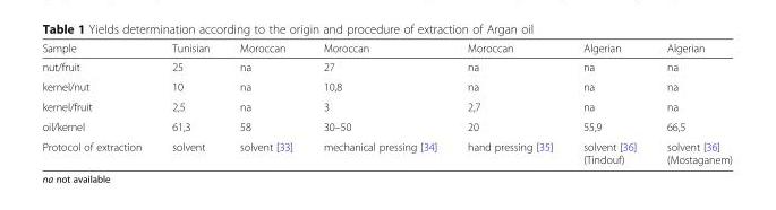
<table><thead><tr><td>Sample</td><td>Tunisian</td><td>Moroccan</td><td>Moroccan</td><td>Moroccan</td><td>Algerian</td><td>Algerian</td></tr></thead><tbody><tr><td>nut/fruit</td><td>25</td><td>na</td><td>27</td><td>na</td><td>na</td><td>na</td></tr><tr><td>kernel/nut</td><td>10</td><td>na</td><td>10,8</td><td>na</td><td>na</td><td>na</td></tr><tr><td>kernel/fruit</td><td>2,5</td><td>na</td><td>3</td><td>2,7</td><td>na</td><td>na</td></tr><tr><td>oil/kernel</td><td>61,3</td><td>58</td><td>30–50</td><td>20</td><td>55,9</td><td>66,5</td></tr><tr><td>Protocol of extraction</td><td>solvent</td><td>solvent [33]</td><td>mechanical pressing [34]</td><td>hand pressing [35]</td><td>solvent [36] (Tindouf)</td><td>solvent [36] (Mostaganem)</td></tr></tbody></table>